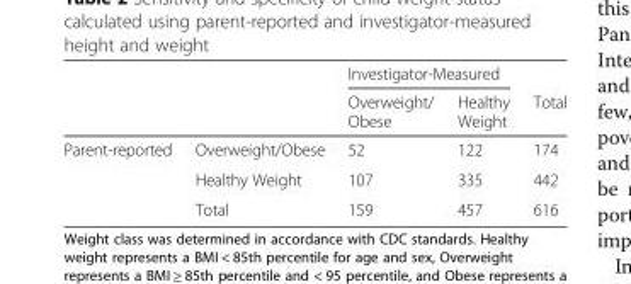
<table><thead><tr><td rowspan="2"></td><td rowspan="2"></td><td colspan="2">Investigator-Measured</td><td rowspan="2">Total</td></tr><tr><td>Overweight/ Obese</td><td>Healthy Weight</td></tr></thead><tbody><tr><td rowspan="3">Parent-reported</td><td>Overweight/Obese</td><td>52</td><td>122</td><td>174</td></tr><tr><td>Healthy Weight</td><td>107</td><td>335</td><td>442</td></tr><tr><td>Total</td><td>159</td><td>457</td><td>616</td></tr></tbody></table>